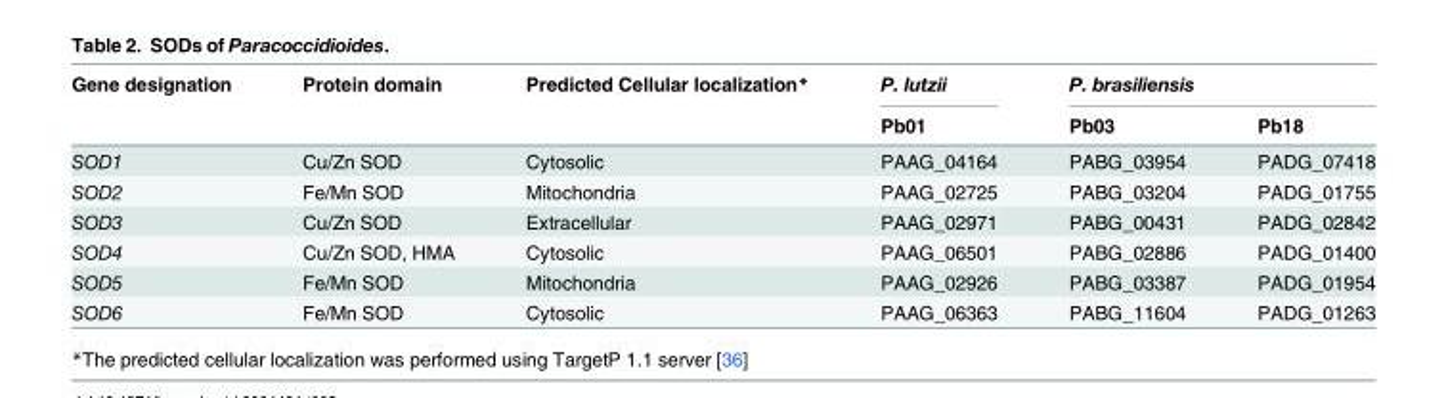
<table><thead><tr><td rowspan="2">Gene designation</td><td rowspan="2">Protein domain</td><td rowspan="2">Predicted Cellular localization*</td><td rowspan="2">P. lutzii Pb01</td><td colspan="2">P. brasiliensis</td></tr><tr><td>Pb03</td><td>Pb18</td></tr></thead><tbody><tr><td>SOD1</td><td>Cu/Zn SOD</td><td>Cytosolic</td><td>PAAG_04164</td><td>PABG_03954</td><td>PADG_07418</td></tr><tr><td>SOD2</td><td>Fe/Mn SOD</td><td>Mitochondria</td><td>PAAG_02725</td><td>PABG_03204</td><td>PADG_01755</td></tr><tr><td>SOD3</td><td>Cu/Zn SOD</td><td>Extracellular</td><td>PAAG_02971</td><td>PABG_00431</td><td>PADG_02842</td></tr><tr><td>SOD4</td><td>Cu/Zn SOD, HMA</td><td>Cytosolic</td><td>PAAG_06501</td><td>PABG_02886</td><td>PADG_01400</td></tr><tr><td>SOD5</td><td>Fe/Mn SOD</td><td>Mitochondria</td><td>PAAG_02926</td><td>PABG_03387</td><td>PADG_01954</td></tr><tr><td>SOD6</td><td>Fe/Mn SOD</td><td>Cytosolic</td><td>PAAG_06363</td><td>PABG_11604</td><td>PADG_01263</td></tr></tbody></table>